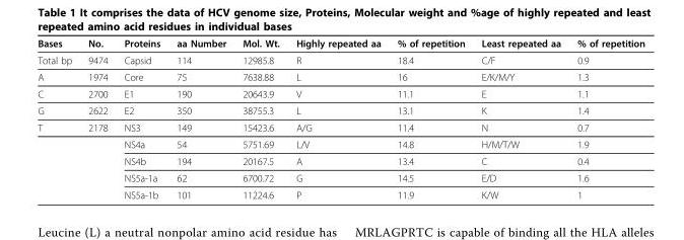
<table><thead><tr><td>Bases</td><td>No.</td><td>Proteins</td><td>aa Number</td><td>Mol. Wt.</td><td>Highly repeated aa</td><td>% of repetition</td><td>Least repeated aa</td><td>% of repetition</td></tr></thead><tbody><tr><td>Total bp</td><td>9474</td><td>Capsid</td><td>114</td><td>12985.8</td><td>R</td><td>18.4</td><td>C/F</td><td>0.9</td></tr><tr><td>A</td><td>1974</td><td>Core</td><td>75</td><td>7638.88</td><td>L</td><td>16</td><td>E/K/M/Y</td><td>1.3</td></tr><tr><td>C</td><td>2700</td><td>E1</td><td>190</td><td>20643.9</td><td>V</td><td>11.1</td><td>E</td><td>1.1</td></tr><tr><td>G</td><td>2622</td><td>E2</td><td>350</td><td>38755.3</td><td>L</td><td>13.1</td><td>K</td><td>1.4</td></tr><tr><td rowspan="5">T</td><td>2178</td><td>NS3</td><td>149</td><td>15423.6</td><td>A/G</td><td>11.4</td><td>N</td><td>0.7</td></tr><tr><td></td><td>NS4a</td><td>54</td><td>5751.69</td><td>L/V</td><td>14.8</td><td>H/M/T/W</td><td>1.9</td></tr><tr><td></td><td>NS4b</td><td>194</td><td>20167.5</td><td>A</td><td>13.4</td><td>C</td><td>0.4</td></tr><tr><td></td><td>NS5a-1a</td><td>62</td><td>6700.72</td><td>G</td><td>14.5</td><td>E/D</td><td>1.6</td></tr><tr><td></td><td>NS5a-1b</td><td>101</td><td>11224.6</td><td>P</td><td>11.9</td><td>K/W</td><td>1</td></tr></tbody></table>